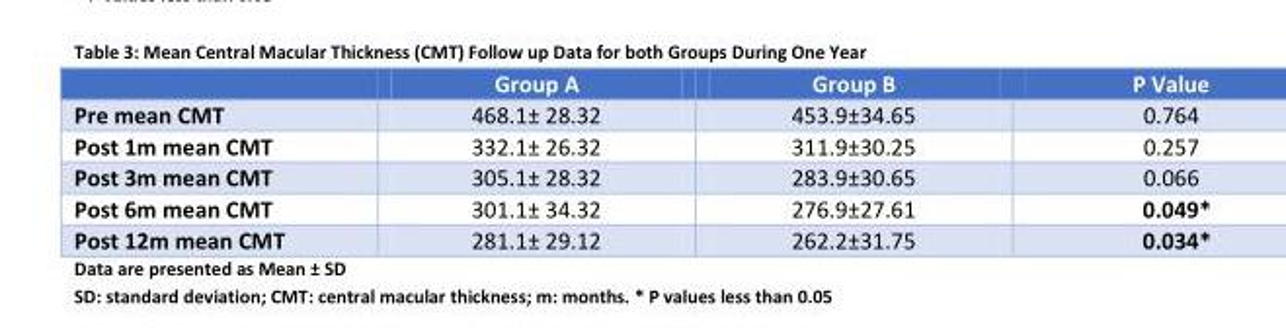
<table><thead><tr><td></td><td>Group A</td><td>Group B</td><td>P Value</td></tr></thead><tbody><tr><td>Pre mean CMT</td><td>468.1± 28.32</td><td>453.9±34.65</td><td>0.764</td></tr><tr><td>Post 1m mean CMT</td><td>332.1± 26.32</td><td>311.9±30.25</td><td>0.257</td></tr><tr><td>Post 3m mean CMT</td><td>305.1± 28.32</td><td>283.9±30.65</td><td>0.066</td></tr><tr><td>Post 6m mean CMT</td><td>301.1± 34.32</td><td>276.9±27.61</td><td>0.049*</td></tr><tr><td>Post 12m mean CMT</td><td>281.1± 29.12</td><td>262.2±31.75</td><td>0.034*</td></tr></tbody></table>